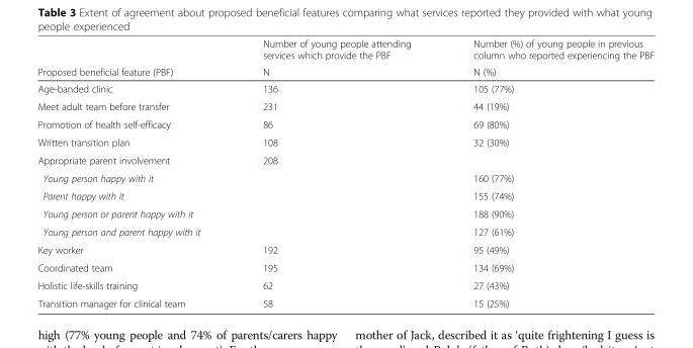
<table><thead><tr><td rowspan="2">Proposed beneficial feature (PBF)</td><td rowspan="2">Number of young people attending services which provide the PBF N</td><td rowspan="2">Number (%) of young people in previous column who reported experiencing the PBF N (%)</td></tr><tr></tr></thead><tbody><tr><td>Age-banded clinic</td><td>136</td><td>105 (77%)</td></tr><tr><td>Meet adult team before transfer</td><td>231</td><td>44 (19%)</td></tr><tr><td>Promotion of health self-efficacy</td><td>86</td><td>69 (80%)</td></tr><tr><td>Written transition plan</td><td>108</td><td>32 (30%)</td></tr><tr><td>Appropriate parent involvement</td><td>208</td><td></td></tr><tr><td>Young person happy with it</td><td></td><td>160 (77%)</td></tr><tr><td>Parent happy with it</td><td></td><td>155 (74%)</td></tr><tr><td>Young person or parent happy with it</td><td></td><td>188 (90%)</td></tr><tr><td>Young person and parent happy with it</td><td></td><td>127 (61%)</td></tr><tr><td>Key worker</td><td>192</td><td>95 (49%)</td></tr><tr><td>Coordinated team</td><td>195</td><td>134 (69%)</td></tr><tr><td>Holistic life-skills training</td><td>62</td><td>27 (43%)</td></tr><tr><td>Transition manager for clinical team</td><td>58</td><td>15 (25%)</td></tr></tbody></table>